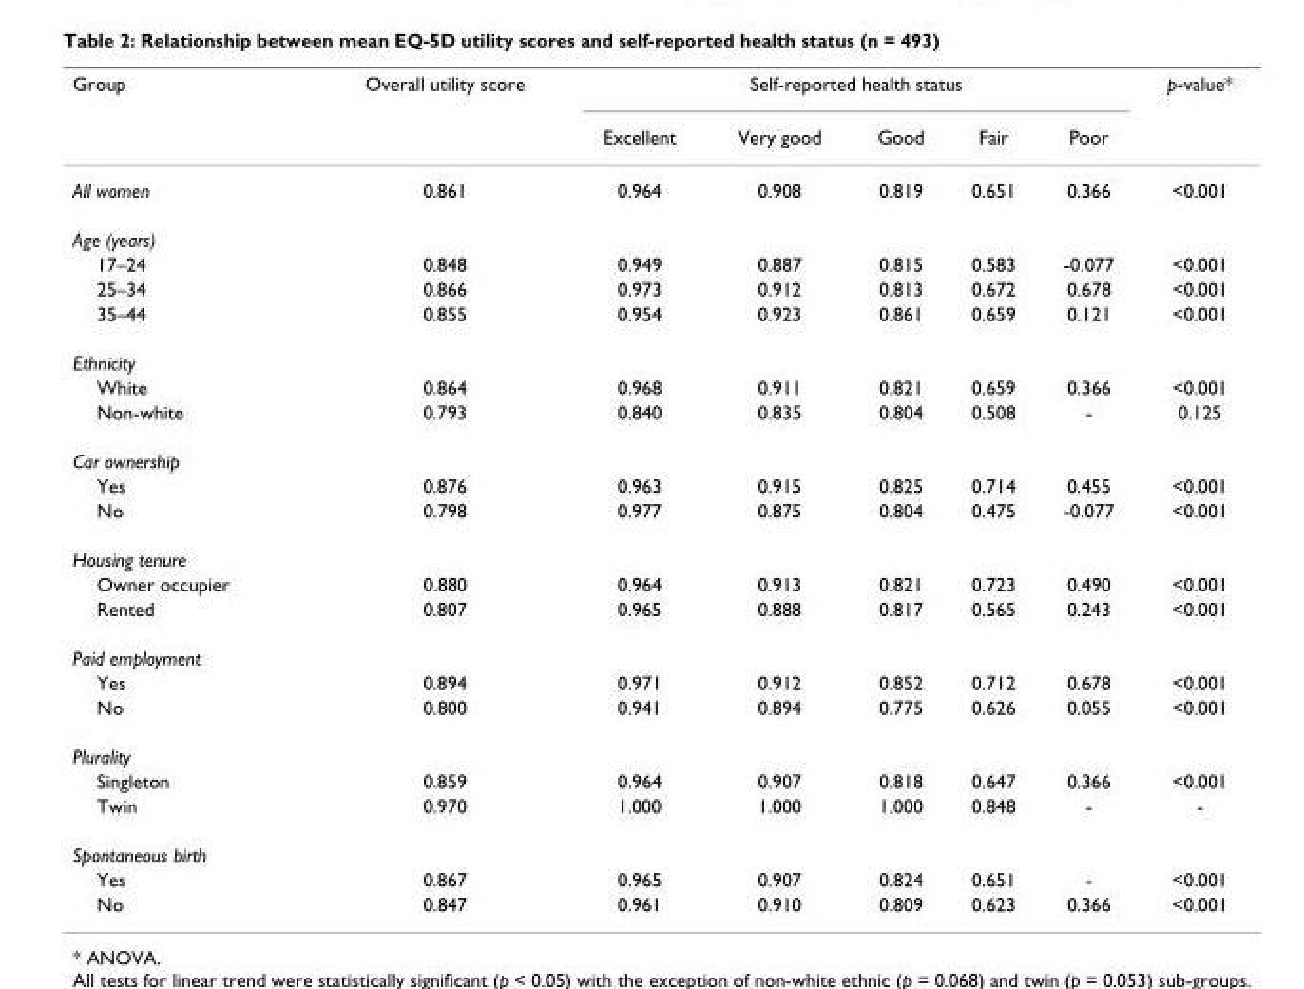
<table><thead><tr><td rowspan="2">Group</td><td rowspan="2">Overall utility score</td><td colspan="5">Self-reported health status</td><td rowspan="2">p-value*</td></tr><tr><td>Excellent</td><td>Very good</td><td>Good</td><td>Fair</td><td>Poor</td></tr></thead><tbody><tr><td>All women</td><td>0.861</td><td>0.964</td><td>0.908</td><td>0.819</td><td>0.651</td><td>0.366</td><td>&lt;0.001</td></tr><tr><td colspan="8">Age (years)</td></tr><tr><td>17–24</td><td>0.848</td><td>0.949</td><td>0.887</td><td>0.815</td><td>0.583</td><td>-0.077</td><td>&lt;0.001</td></tr><tr><td>25–34</td><td>0.866</td><td>0.973</td><td>0.912</td><td>0.813</td><td>0.672</td><td>0.678</td><td>&lt;0.001</td></tr><tr><td>35–44</td><td>0.855</td><td>0.954</td><td>0.923</td><td>0.861</td><td>0.659</td><td>0.121</td><td>&lt;0.001</td></tr><tr><td colspan="8">Ethnicity</td></tr><tr><td>White</td><td>0.864</td><td>0.968</td><td>0.911</td><td>0.821</td><td>0.659</td><td>0.366</td><td>&lt;0.001</td></tr><tr><td>Non-white</td><td>0.793</td><td>0.840</td><td>0.835</td><td>0.804</td><td>0.508</td><td>-</td><td>0.125</td></tr><tr><td colspan="8">Car ownership</td></tr><tr><td>Yes</td><td>0.876</td><td>0.963</td><td>0.915</td><td>0.825</td><td>0.714</td><td>0.455</td><td>&lt;0.001</td></tr><tr><td>No</td><td>0.798</td><td>0.977</td><td>0.875</td><td>0.804</td><td>0.475</td><td>-0.077</td><td>&lt;0.001</td></tr><tr><td colspan="8">Housing tenure</td></tr><tr><td>Owner occupier</td><td>0.880</td><td>0.964</td><td>0.913</td><td>0.821</td><td>0.723</td><td>0.490</td><td>&lt;0.001</td></tr><tr><td>Rented</td><td>0.807</td><td>0.965</td><td>0.888</td><td>0.817</td><td>0.565</td><td>0.243</td><td>&lt;0.001</td></tr><tr><td colspan="8">Paid employment</td></tr><tr><td>Yes</td><td>0.894</td><td>0.971</td><td>0.912</td><td>0.852</td><td>0.712</td><td>0.678</td><td>&lt;0.001</td></tr><tr><td>No</td><td>0.800</td><td>0.941</td><td>0.894</td><td>0.775</td><td>0.626</td><td>0.055</td><td>&lt;0.001</td></tr><tr><td colspan="8">Plurality</td></tr><tr><td>Singleton</td><td>0.859</td><td>0.964</td><td>0.907</td><td>0.818</td><td>0.647</td><td>0.366</td><td>&lt;0.001</td></tr><tr><td>Twin</td><td>0.970</td><td>1.000</td><td>1.000</td><td>1.000</td><td>0.848</td><td>-</td><td>-</td></tr><tr><td colspan="8">Spontaneous birth</td></tr><tr><td>Yes</td><td>0.867</td><td>0.965</td><td>0.907</td><td>0.824</td><td>0.651</td><td>-</td><td>&lt;0.001</td></tr><tr><td>No</td><td>0.847</td><td>0.961</td><td>0.910</td><td>0.809</td><td>0.623</td><td>0.366</td><td>&lt;0.001</td></tr></tbody></table>